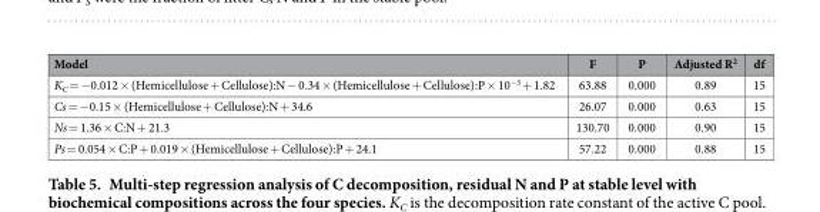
<table><thead><tr><td>Model</td><td>F</td><td>P</td><td>Adjusted R<sup>2</sup></td><td>df</td></tr></thead><tbody><tr><td>K<sub>C</sub> = − 0.012 × (Hemicellulose + Cellulose):N − 0.34 × (Hemicellulose + Cellulose):P × 10<sup>−3</sup> + 1.82</td><td>63.88</td><td>0.000</td><td>0.89</td><td>15</td></tr><tr><td>Cs = − 0.15 × (Hemicellulose + Cellulose):N + 34.6</td><td>26.07</td><td>0.000</td><td>0.63</td><td>15</td></tr><tr><td>Ns = 1.36 × C:N + 21.3</td><td>130.70</td><td>0.000</td><td>0.90</td><td>15</td></tr><tr><td>Ps = 0.054 × C:P + 0.019 × (Hemicellulose + Cellulose):P + 24.1</td><td>57.22</td><td>0.000</td><td>0.88</td><td>15</td></tr></tbody></table>